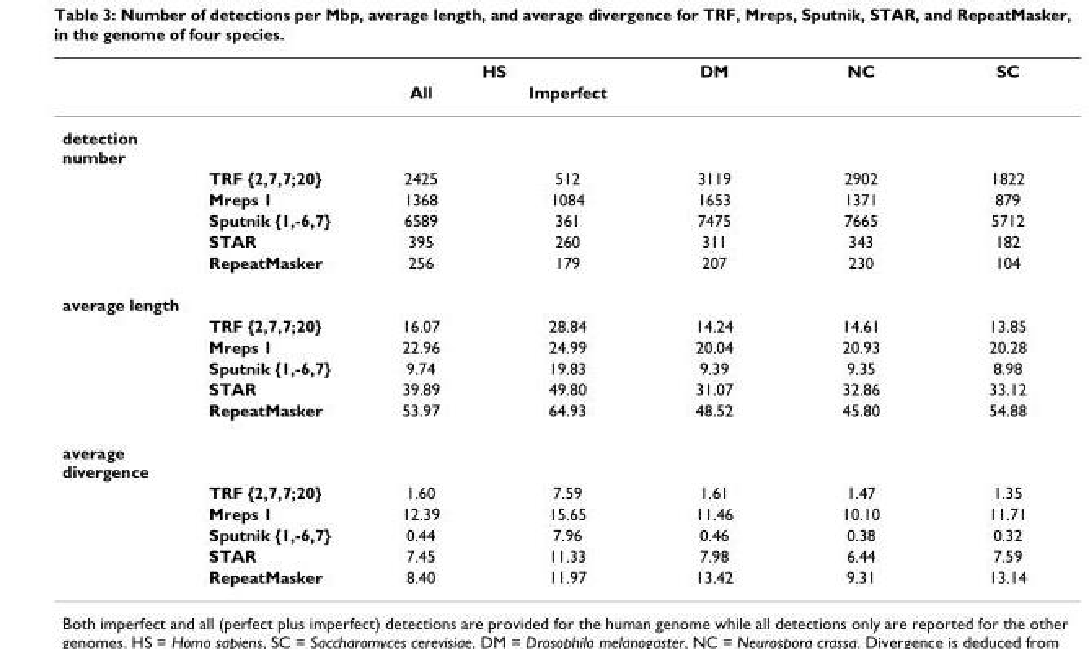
<table><thead><tr><td rowspan="2"></td><td rowspan="2"></td><td colspan="2">HS</td><td rowspan="2">DM</td><td rowspan="2">NC</td><td rowspan="2">SC</td></tr><tr><td>All</td><td>Imperfect</td></tr></thead><tbody><tr><td colspan="7">detection number</td></tr><tr><td></td><td>TRF {2,7,7;20}</td><td>2425</td><td>512</td><td>3119</td><td>2902</td><td>1822</td></tr><tr><td></td><td>Mreps 1</td><td>1368</td><td>1084</td><td>1653</td><td>1371</td><td>879</td></tr><tr><td></td><td>Sputnik {1,-6,7}</td><td>6589</td><td>361</td><td>7475</td><td>7665</td><td>5712</td></tr><tr><td></td><td>STAR</td><td>395</td><td>260</td><td>311</td><td>343</td><td>182</td></tr><tr><td></td><td>RepeatMasker</td><td>256</td><td>179</td><td>207</td><td>230</td><td>104</td></tr><tr><td colspan="7">average length</td></tr><tr><td></td><td>TRF {2,7,7;20}</td><td>16.07</td><td>28.84</td><td>14.24</td><td>14.61</td><td>13.85</td></tr><tr><td></td><td>Mreps 1</td><td>22.96</td><td>24.99</td><td>20.04</td><td>20.93</td><td>20.28</td></tr><tr><td></td><td>Sputnik {1,-6,7}</td><td>9.74</td><td>19.83</td><td>9.39</td><td>9.35</td><td>8.98</td></tr><tr><td></td><td>STAR</td><td>39.89</td><td>49.80</td><td>31.07</td><td>32.86</td><td>33.12</td></tr><tr><td></td><td>RepeatMasker</td><td>53.97</td><td>64.93</td><td>48.52</td><td>45.80</td><td>54.88</td></tr><tr><td colspan="7">average divergence</td></tr><tr><td></td><td>TRF {2,7,7;20}</td><td>1.60</td><td>7.59</td><td>1.61</td><td>1.47</td><td>1.35</td></tr><tr><td></td><td>Mreps 1</td><td>12.39</td><td>15.65</td><td>11.46</td><td>10.10</td><td>11.71</td></tr><tr><td></td><td>Sputnik {1,-6,7}</td><td>0.44</td><td>7.96</td><td>0.46</td><td>0.38</td><td>0.32</td></tr><tr><td></td><td>STAR</td><td>7.45</td><td>11.33</td><td>7.98</td><td>6.44</td><td>7.59</td></tr><tr><td></td><td>RepeatMasker</td><td>8.40</td><td>11.97</td><td>13.42</td><td>9.31</td><td>13.14</td></tr></tbody></table>